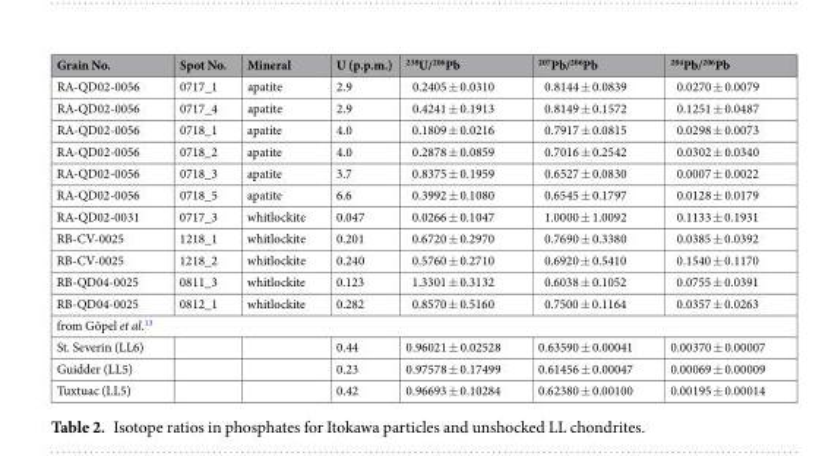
<table><thead><tr><td>Grain No.</td><td>Spot No.</td><td>Mineral</td><td>U (p.p.m.)</td><td><sup>238</sup>U/<sup>206</sup>Pb</td><td><sup>207</sup>Pb/<sup>206</sup>Pb</td><td><sup>204</sup>Pb/<sup>206</sup>Pb</td></tr></thead><tbody><tr><td>RA-QD02-0056</td><td>0717_1</td><td>apatite</td><td>2.9</td><td>0.2405 ± 0.0310</td><td>0.8144 ± 0.0839</td><td>0.0270 ± 0.0079</td></tr><tr><td>RA-QD02-0056</td><td>0717_4</td><td>apatite</td><td>2.9</td><td>0.4241 ± 0.1913</td><td>0.8149 ± 0.1572</td><td>0.1251 ± 0.0487</td></tr><tr><td>RA-QD02-0056</td><td>0718_1</td><td>apatite</td><td>4.0</td><td>0.1809 ± 0.0216</td><td>0.7917 ± 0.0815</td><td>0.0298 ± 0.0073</td></tr><tr><td>RA-QD02-0056</td><td>0718_2</td><td>apatite</td><td>4.0</td><td>0.2878 ± 0.0859</td><td>0.7016 ± 0.2542</td><td>0.0302 ± 0.0340</td></tr><tr><td>RA-QD02-0056</td><td>0718_3</td><td>apatite</td><td>3.7</td><td>0.8375 ± 0.1959</td><td>0.6527 ± 0.0830</td><td>0.0007 ± 0.0022</td></tr><tr><td>RA-QD02-0056</td><td>0718_5</td><td>apatite</td><td>6.6</td><td>0.3992 ± 0.1080</td><td>0.6545 ± 0.1797</td><td>0.0128 ± 0.0179</td></tr><tr><td>RA-QD02-0031</td><td>0717_3</td><td>whitlockite</td><td>0.047</td><td>0.0266 ± 0.1047</td><td>1.0000 ± 1.0092</td><td>0.1133 ± 0.1931</td></tr><tr><td>RB-CV-0025</td><td>1218_1</td><td>whitlockite</td><td>0.201</td><td>0.6720 ± 0.2970</td><td>0.7690 ± 0.3380</td><td>0.0385 ± 0.0392</td></tr><tr><td>RB-CV-0025</td><td>1218_2</td><td>whitlockite</td><td>0.240</td><td>0.5760 ± 0.2710</td><td>0.6920 ± 0.5410</td><td>0.1540 ± 0.1170</td></tr><tr><td>RB-QD04-0025</td><td>0811_3</td><td>whitlockite</td><td>0.123</td><td>1.3301 ± 0.3132</td><td>0.6038 ± 0.1052</td><td>0.0755 ± 0.0391</td></tr><tr><td>RB-QD04-0025</td><td>0812_1</td><td>whitlockite</td><td>0.282</td><td>0.8570 ± 0.5160</td><td>0.7500 ± 0.1164</td><td>0.0357 ± 0.0263</td></tr><tr><td colspan="7">from Göpel et al.<sup>13</sup></td></tr><tr><td>St. Severin (LL6)</td><td></td><td></td><td>0.44</td><td>0.96021 ± 0.02528</td><td>0.63590 ± 0.00041</td><td>0.00370 ± 0.00007</td></tr><tr><td>Guidder (LL5)</td><td></td><td></td><td>0.23</td><td>0.97578 ± 0.17499</td><td>0.61456 ± 0.00047</td><td>0.00069 ± 0.00009</td></tr><tr><td>Tuxtuac (LL5)</td><td></td><td></td><td>0.42</td><td>0.96693 ± 0.10284</td><td>0.62380 ± 0.00100</td><td>0.00195 ± 0.00014</td></tr></tbody></table>